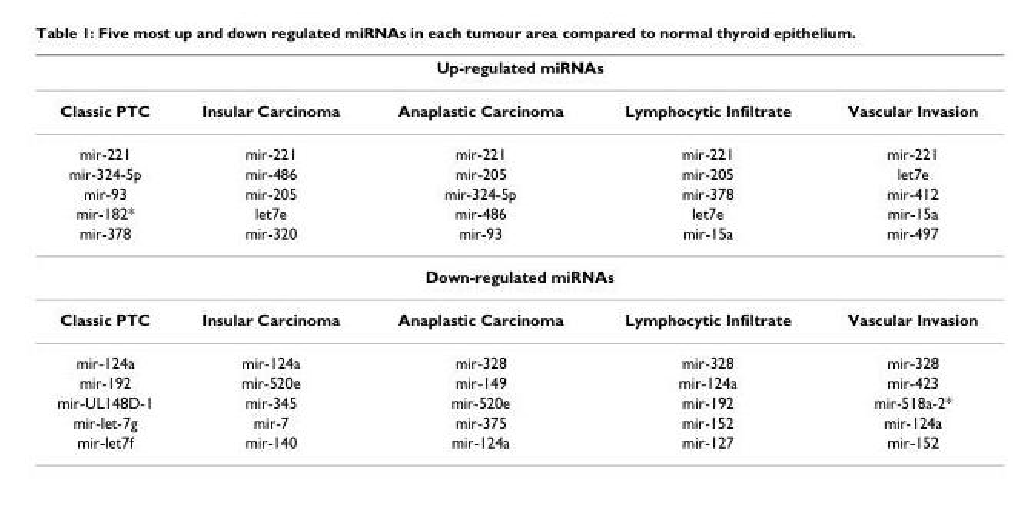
<table><thead><tr><td colspan="5">Up-regulated miRNAs</td></tr><tr><td>Classic PTC</td><td>Insular Carcinoma</td><td>Anaplastic Carcinoma</td><td>Lymphocytic Infiltrate</td><td>Vascular Invasion</td></tr></thead><tbody><tr><td>mir-221</td><td>mir-221</td><td>mir-221</td><td>mir-221</td><td>mir-221</td></tr><tr><td>mir-324-5p</td><td>mir-486</td><td>mir-205</td><td>mir-205</td><td>let7e</td></tr><tr><td>mir-93</td><td>mir-205</td><td>mir-324-5p</td><td>mir-378</td><td>mir-412</td></tr><tr><td>mir-182*</td><td>let7e</td><td>mir-486</td><td>let7e</td><td>mir-15a</td></tr><tr><td>mir-378</td><td>mir-320</td><td>mir-93</td><td>mir-15a</td><td>mir-497</td></tr><tr><td colspan="5">Down-regulated miRNAs</td></tr><tr><td>Classic PTC</td><td>Insular Carcinoma</td><td>Anaplastic Carcinoma</td><td>Lymphocytic Infiltrate</td><td>Vascular Invasion</td></tr><tr><td>mir-124a</td><td>mir-124a</td><td>mir-328</td><td>mir-328</td><td>mir-328</td></tr><tr><td>mir-192</td><td>mir-520e</td><td>mir-149</td><td>mir-124a</td><td>mir-423</td></tr><tr><td>mir-UL148D-1</td><td>mir-345</td><td>mir-520e</td><td>mir-192</td><td>mir-518a-2*</td></tr><tr><td>mir-let-7g</td><td>mir-7</td><td>mir-375</td><td>mir-152</td><td>mir-124a</td></tr><tr><td>mir-let7f</td><td>mir-140</td><td>mir-124a</td><td>mir-127</td><td>mir-152</td></tr></tbody></table>